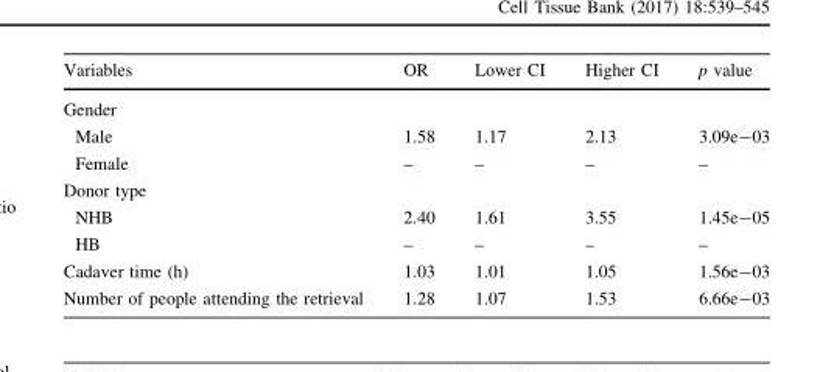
<table><thead><tr><td>Variables</td><td>OR</td><td>Lower CI</td><td>Higher CI</td><td>p value</td></tr></thead><tbody><tr><td colspan="5">Gender</td></tr><tr><td>Male</td><td>1.58</td><td>1.17</td><td>2.13</td><td>3.09e-03</td></tr><tr><td>Female</td><td>–</td><td>–</td><td>–</td><td>–</td></tr><tr><td colspan="5">Donor type</td></tr><tr><td>NHB</td><td>2.40</td><td>1.61</td><td>3.55</td><td>1.45e-05</td></tr><tr><td>HB</td><td>–</td><td>–</td><td>–</td><td>–</td></tr><tr><td>Cadaver time (h)</td><td>1.03</td><td>1.01</td><td>1.05</td><td>1.56e-03</td></tr><tr><td>Number of people attending the retrieval</td><td>1.28</td><td>1.07</td><td>1.53</td><td>6.66e-03</td></tr></tbody></table>